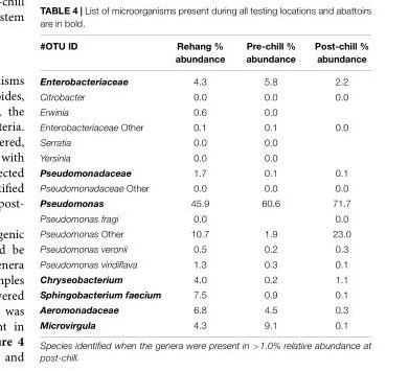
<table><thead><tr><td>#OTU ID</td><td>Rehang % abundance</td><td>Pre-chill % abundance</td><td>Post-chill % abundance</td></tr></thead><tbody><tr><td>Enterobacteriaceae</td><td>4.3</td><td>5.8</td><td>2.2</td></tr><tr><td>Citrobacter</td><td>0.0</td><td>0.0</td><td>0.0</td></tr><tr><td>Erwinia</td><td>0.6</td><td>0.0</td><td></td></tr><tr><td>Enterobacteriaceae Other</td><td>0.1</td><td>0.1</td><td>0.0</td></tr><tr><td>Serratia</td><td>0.0</td><td>0.0</td><td></td></tr><tr><td>Yersinia</td><td>0.0</td><td>0.0</td><td></td></tr><tr><td>Pseudomonadaceae</td><td>1.7</td><td>0.1</td><td>0.1</td></tr><tr><td>Pseudomonadaceae Other</td><td>0.0</td><td>0.0</td><td>0.0</td></tr><tr><td>Pseudomonas</td><td>45.9</td><td>60.6</td><td>71.7</td></tr><tr><td>Pseudomonas fragi</td><td>0.0</td><td></td><td>0.0</td></tr><tr><td>Pseudomonas Other</td><td>10.7</td><td>1.9</td><td>23.0</td></tr><tr><td>Pseudomonas veronii</td><td>0.5</td><td>0.2</td><td>0.3</td></tr><tr><td>Pseudomonas viridiflava</td><td>1.3</td><td>0.3</td><td>0.1</td></tr><tr><td>Chryseobacterium</td><td>4.0</td><td>0.2</td><td>1.1</td></tr><tr><td>Sphingobacterium faecium</td><td>7.5</td><td>0.9</td><td>0.1</td></tr><tr><td>Aeromonadaceae</td><td>6.8</td><td>4.5</td><td>0.3</td></tr><tr><td>Microvirgula</td><td>4.3</td><td>9.1</td><td>0.1</td></tr></tbody></table>